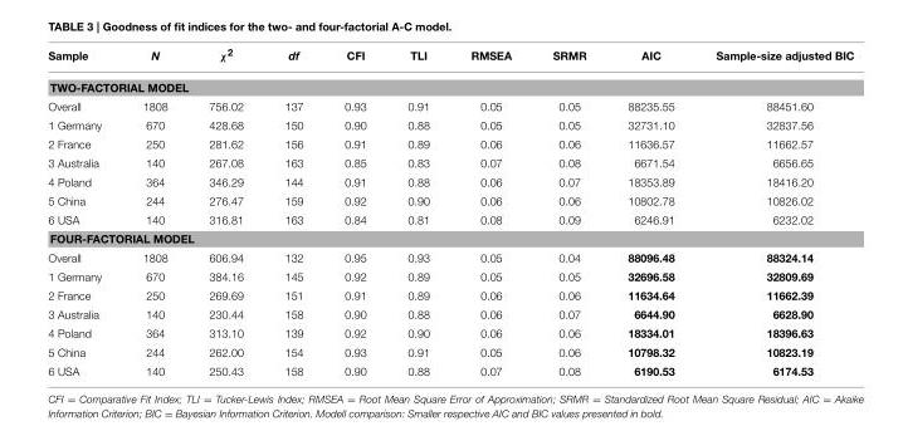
<table><thead><tr><td>Sample</td><td>N</td><td>χ<sup>2</sup></td><td>df</td><td>CFI</td><td>TLI</td><td>RMSEA</td><td>SRMR</td><td>AIC</td><td>Sample-size adjusted BIC</td></tr></thead><tbody><tr><td colspan="10">TWO-FACTORIAL MODEL</td></tr><tr><td>Overall</td><td>1808</td><td>756.02</td><td>137</td><td>0.93</td><td>0.91</td><td>0.05</td><td>0.05</td><td>88235.55</td><td>88451.60</td></tr><tr><td>1 Germany</td><td>670</td><td>428.68</td><td>150</td><td>0.90</td><td>0.88</td><td>0.05</td><td>0.05</td><td>32731.10</td><td>32837.56</td></tr><tr><td>2 France</td><td>250</td><td>281.62</td><td>156</td><td>0.91</td><td>0.89</td><td>0.06</td><td>0.06</td><td>11636.57</td><td>11662.57</td></tr><tr><td>3 Australia</td><td>140</td><td>267.08</td><td>163</td><td>0.85</td><td>0.83</td><td>0.07</td><td>0.08</td><td>6671.54</td><td>6656.65</td></tr><tr><td>4 Poland</td><td>364</td><td>346.29</td><td>144</td><td>0.91</td><td>0.88</td><td>0.06</td><td>0.07</td><td>18353.89</td><td>18416.20</td></tr><tr><td>5 China</td><td>244</td><td>276.47</td><td>159</td><td>0.92</td><td>0.90</td><td>0.06</td><td>0.06</td><td>10802.78</td><td>10826.02</td></tr><tr><td>6 USA</td><td>140</td><td>316.81</td><td>163</td><td>0.84</td><td>0.81</td><td>0.08</td><td>0.09</td><td>6246.91</td><td>6232.02</td></tr><tr><td colspan="10">FOUR-FACTORIAL MODEL</td></tr><tr><td>Overall</td><td>1808</td><td>606.94</td><td>132</td><td>0.95</td><td>0.93</td><td>0.05</td><td>0.04</td><td>88096.48</td><td>88324.14</td></tr><tr><td>1 Germany</td><td>670</td><td>384.16</td><td>145</td><td>0.92</td><td>0.89</td><td>0.05</td><td>0.05</td><td>32696.58</td><td>32809.69</td></tr><tr><td>2 France</td><td>250</td><td>269.69</td><td>151</td><td>0.91</td><td>0.89</td><td>0.06</td><td>0.06</td><td>11634.64</td><td>11662.39</td></tr><tr><td>3 Australia</td><td>140</td><td>230.44</td><td>158</td><td>0.90</td><td>0.88</td><td>0.06</td><td>0.07</td><td>6644.90</td><td>6628.90</td></tr><tr><td>4 Poland</td><td>364</td><td>313.10</td><td>139</td><td>0.92</td><td>0.90</td><td>0.06</td><td>0.06</td><td>18334.01</td><td>18396.63</td></tr><tr><td>5 China</td><td>244</td><td>262.00</td><td>154</td><td>0.93</td><td>0.91</td><td>0.05</td><td>0.06</td><td>10798.32</td><td>10823.19</td></tr><tr><td>6 USA</td><td>140</td><td>250.43</td><td>158</td><td>0.90</td><td>0.88</td><td>0.07</td><td>0.08</td><td>6190.53</td><td>6174.53</td></tr></tbody></table>